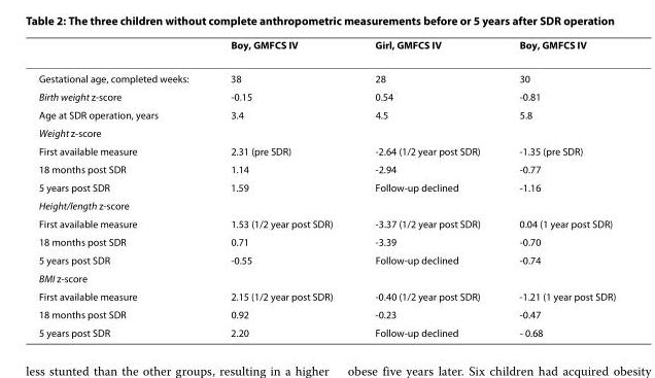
<table><thead><tr><td></td><td>Boy, GMFCS IV</td><td>Girl, GMFCS IV</td><td>Boy, GMFCS IV</td></tr></thead><tbody><tr><td>Gestational age, completed weeks:</td><td>38</td><td>28</td><td>30</td></tr><tr><td>Birth weight z-score</td><td>-0.15</td><td>0.54</td><td>-0.81</td></tr><tr><td>Age at SDR operation, years</td><td>3.4</td><td>4.5</td><td>5.8</td></tr><tr><td colspan="4">Weight z-score</td></tr><tr><td>First available measure</td><td>2.31 (pre SDR)</td><td>-2.64 (1/2 year post SDR)</td><td>-1.35 (pre SDR)</td></tr><tr><td>18 months post SDR</td><td>1.14</td><td>-2.94</td><td>-0.77</td></tr><tr><td>5 years post SDR</td><td>1.59</td><td>Follow-up declined</td><td>-1.16</td></tr><tr><td colspan="4">Height/length z-score</td></tr><tr><td>First available measure</td><td>1.53 (1/2 year post SDR)</td><td>-3.37 (1/2 year post SDR)</td><td>0.04 (1 year post SDR)</td></tr><tr><td>18 months post SDR</td><td>0.71</td><td>-3.39</td><td>-0.70</td></tr><tr><td>5 years post SDR</td><td>-0.55</td><td>Follow-up declined</td><td>-0.74</td></tr><tr><td colspan="4">BMI z-score</td></tr><tr><td>First available measure</td><td>2.15 (1/2 year post SDR)</td><td>-0.40 (1/2 year post SDR)</td><td>-1.21 (1 year post SDR)</td></tr><tr><td>18 months post SDR</td><td>0.92</td><td>-0.23</td><td>-0.47</td></tr><tr><td>5 years post SDR</td><td>2.20</td><td>Follow-up declined</td><td>- 0.68</td></tr></tbody></table>